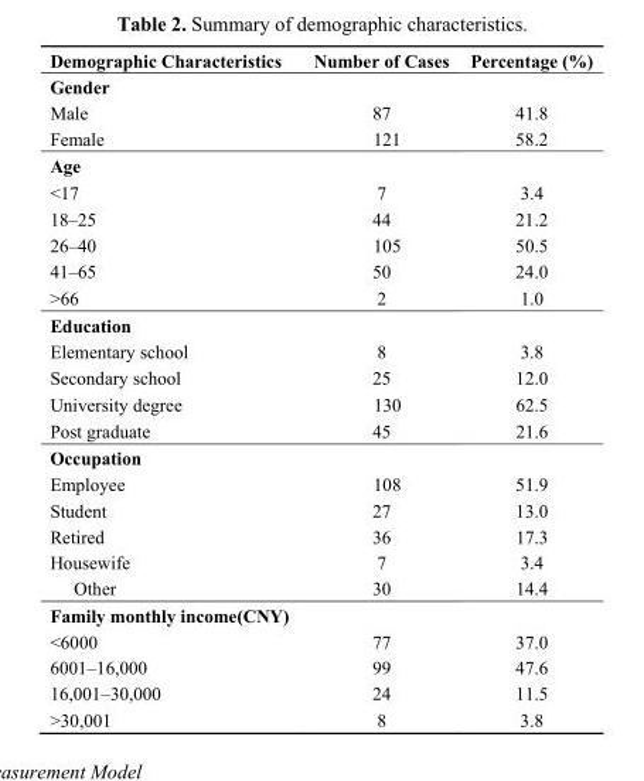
<table><thead><tr><td>Demographic Characteristics</td><td>Number of Cases</td><td>Percentage (%)</td></tr></thead><tbody><tr><td colspan="3">Gender</td></tr><tr><td>Male</td><td>87</td><td>41.8</td></tr><tr><td>Female</td><td>121</td><td>58.2</td></tr><tr><td colspan="3">Age</td></tr><tr><td>&lt;17</td><td>7</td><td>3.4</td></tr><tr><td>18–25</td><td>44</td><td>21.2</td></tr><tr><td>26–40</td><td>105</td><td>50.5</td></tr><tr><td>41–65</td><td>50</td><td>24.0</td></tr><tr><td>&gt;66</td><td>2</td><td>1.0</td></tr><tr><td colspan="3">Education</td></tr><tr><td>Elementary school</td><td>8</td><td>3.8</td></tr><tr><td>Secondary school</td><td>25</td><td>12.0</td></tr><tr><td>University degree</td><td>130</td><td>62.5</td></tr><tr><td>Post graduate</td><td>45</td><td>21.6</td></tr><tr><td colspan="3">Occupation</td></tr><tr><td>Employee</td><td>108</td><td>51.9</td></tr><tr><td>Student</td><td>27</td><td>13.0</td></tr><tr><td>Retired</td><td>36</td><td>17.3</td></tr><tr><td>Housewife</td><td>7</td><td>3.4</td></tr><tr><td>Other</td><td>30</td><td>14.4</td></tr><tr><td colspan="3">Family monthly income(CNY)</td></tr><tr><td>&lt;6000</td><td>77</td><td>37.0</td></tr><tr><td>6001–16,000</td><td>99</td><td>47.6</td></tr><tr><td>16,001–30,000</td><td>24</td><td>11.5</td></tr><tr><td>&gt;30,001</td><td>8</td><td>3.8</td></tr></tbody></table>